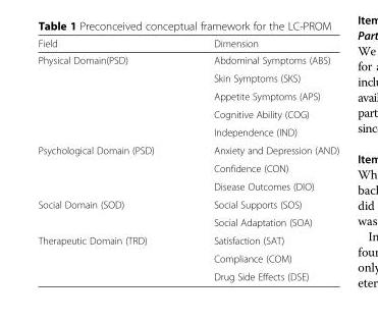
<table><thead><tr><td>Field</td><td>Dimension</td></tr></thead><tbody><tr><td rowspan="5">Physical Domain(PSD)</td><td>Abdominal Symptoms (ABS)</td></tr><tr><td>Skin Symptoms (SKS)</td></tr><tr><td>Appetite Symptoms (APS)</td></tr><tr><td>Cognitive Ability (COG)</td></tr><tr><td>Independence (IND)</td></tr><tr><td rowspan="3">Psychological Domain (PSD)</td><td>Anxiety and Depression (AND)</td></tr><tr><td>Confidence (CON)</td></tr><tr><td>Disease Outcomes (DIO)</td></tr><tr><td rowspan="2">Social Domain (SOD)</td><td>Social Supports (SOS)</td></tr><tr><td>Social Adaptation (SOA)</td></tr><tr><td rowspan="3">Therapeutic Domain (TRD)</td><td>Satisfaction (SAT)</td></tr><tr><td>Compliance (COM)</td></tr><tr><td>Drug Side Effects (DSE)</td></tr></tbody></table>